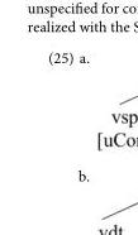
<table><tbody><tr><td rowspan="2">(25)</td><td>a.</td></tr><tr><td>b.</td></tr></tbody></table>